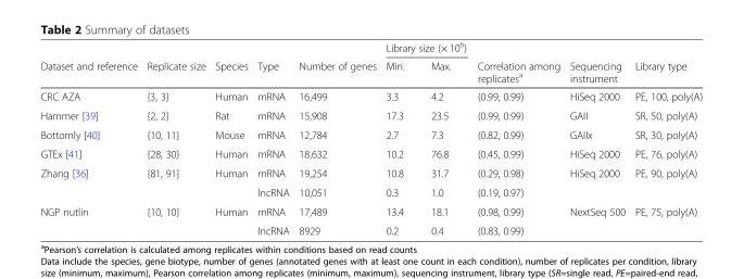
<table><thead><tr><td rowspan="2">Dataset and reference</td><td rowspan="2">Replicate size</td><td rowspan="2">Species</td><td rowspan="2">Type</td><td rowspan="2">Number of genes</td><td colspan="2">Library size (× 10<sup>6</sup>)</td><td rowspan="2">Correlation among replicates<sup>a</sup></td><td rowspan="2">Sequencing instrument</td><td rowspan="2">Library type</td></tr><tr><td>Min.</td><td>Max.</td></tr></thead><tbody><tr><td>CRC AZA</td><td>{3, 3}</td><td>Human</td><td>mRNA</td><td>16,499</td><td>3.3</td><td>4.2</td><td>(0.99, 0.99)</td><td>HiSeq 2000</td><td>PE, 100, poly(A)</td></tr><tr><td>Hammer [39]</td><td>{2, 2}</td><td>Rat</td><td>mRNA</td><td>15,908</td><td>17.3</td><td>23.5</td><td>(0.99, 0.99)</td><td>GAII</td><td>SR, 50, poly(A)</td></tr><tr><td>Bottomly [40]</td><td>{10, 11}</td><td>Mouse</td><td>mRNA</td><td>12,784</td><td>2.7</td><td>7.3</td><td>(0.82, 0.99)</td><td>GAIIx</td><td>SR, 30, poly(A)</td></tr><tr><td>GTEx [41]</td><td>{28, 30}</td><td>Human</td><td>mRNA</td><td>18,632</td><td>10.2</td><td>76.8</td><td>(0.45, 0.99)</td><td>HiSeq 2000</td><td>PE, 76, poly(A)</td></tr><tr><td rowspan="2">Zhang [36]</td><td>{81, 91}</td><td>Human</td><td>mRNA</td><td>19,254</td><td>10.8</td><td>31.7</td><td>(0.29, 0.98)</td><td>HiSeq 2000</td><td>PE, 90, poly(A)</td></tr><tr><td></td><td></td><td>lncRNA</td><td>10,051</td><td>0.3</td><td>1.0</td><td>(0.19, 0.97)</td><td></td><td></td></tr><tr><td rowspan="2">NGP nutlin</td><td>{10, 10}</td><td>Human</td><td>mRNA</td><td>17,489</td><td>13.4</td><td>18.1</td><td>(0.98, 0.99)</td><td>NextSeq 500</td><td>PE, 75, poly(A)</td></tr><tr><td></td><td></td><td>lncRNA</td><td>8929</td><td>0.2</td><td>0.4</td><td>(0.83, 0.99)</td><td></td><td></td></tr></tbody></table>